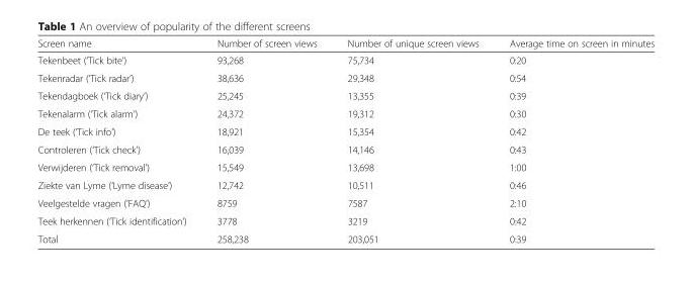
<table><thead><tr><td>Screen name</td><td>Number of screen views</td><td>Number of unique screen views</td><td>Average time on screen in minutes</td></tr></thead><tbody><tr><td>Tekenbeet (‘Tick bite’)</td><td>93,268</td><td>75,734</td><td>0:20</td></tr><tr><td>Tekenradar (‘Tick radar’)</td><td>38,636</td><td>29,348</td><td>0:54</td></tr><tr><td>Tekendagboek (‘Tick diary’)</td><td>25,245</td><td>13,355</td><td>0:39</td></tr><tr><td>Tekenalarm (‘Tick alarm’)</td><td>24,372</td><td>19,312</td><td>0:30</td></tr><tr><td>De teek (‘Tick info’)</td><td>18,921</td><td>15,354</td><td>0:42</td></tr><tr><td>Controleren (‘Tick check’)</td><td>16,039</td><td>14,146</td><td>0:43</td></tr><tr><td>Verwijderen (‘Tick removal’)</td><td>15,549</td><td>13,698</td><td>1:00</td></tr><tr><td>Ziekte van Lyme (‘Lyme disease’)</td><td>12,742</td><td>10,511</td><td>0:46</td></tr><tr><td>Veelgestelde vragen (‘FAQ’)</td><td>8759</td><td>7587</td><td>2:10</td></tr><tr><td>Teek herkennen (‘Tick identification’)</td><td>3778</td><td>3219</td><td>0:42</td></tr><tr><td>Total</td><td>258,238</td><td>203,051</td><td>0:39</td></tr></tbody></table>